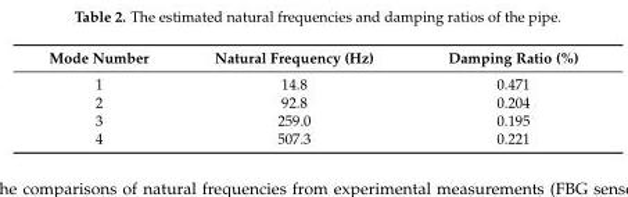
<table><thead><tr><td>Mode Number</td><td>Natural Frequency (Hz)</td><td>Damping Ratio (%)</td></tr></thead><tbody><tr><td>1</td><td>14.8</td><td>0.471</td></tr><tr><td>2</td><td>92.8</td><td>0.204</td></tr><tr><td>3</td><td>259.0</td><td>0.195</td></tr><tr><td>4</td><td>507.3</td><td>0.221</td></tr></tbody></table>